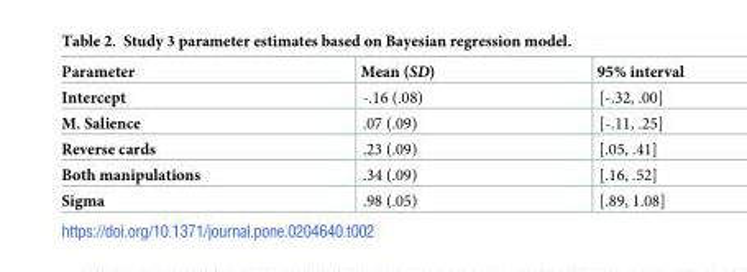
<table><thead><tr><td>Parameter</td><td>Mean (SD)</td><td>95% interval</td></tr></thead><tbody><tr><td>Intercept</td><td>-.16 (.08)</td><td>[-.32, .00]</td></tr><tr><td>M. Salience</td><td>.07 (.09)</td><td>[-.11, .25]</td></tr><tr><td>Reverse cards</td><td>.23 (.09)</td><td>[.05, .41]</td></tr><tr><td>Both manipulations</td><td>.34 (.09)</td><td>[.16, .52]</td></tr><tr><td>Sigma</td><td>.98 (.05)</td><td>[.89, 1.08]</td></tr></tbody></table>